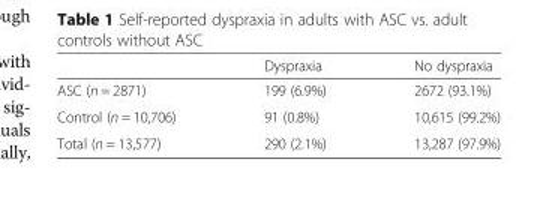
<table><thead><tr><td></td><td>Dyspraxia</td><td>No dyspraxia</td></tr></thead><tbody><tr><td>ASC (n = 2871)</td><td>199 (6.9%)</td><td>2672 (93.1%)</td></tr><tr><td>Control (n = 10,706)</td><td>91 (0.8%)</td><td>10,615 (99.2%)</td></tr><tr><td>Total (n = 13,577)</td><td>290 (2.1%)</td><td>13,287 (97.9%)</td></tr></tbody></table>